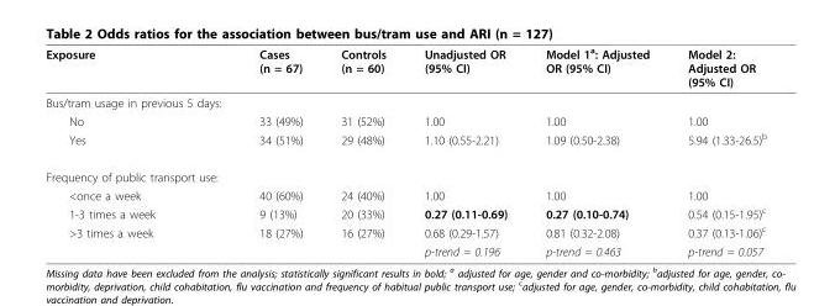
<table><thead><tr><td>Exposure</td><td>Cases (n = 67)</td><td>Controls (n = 60)</td><td>Unadjusted OR (95% CI)</td><td>Model 1<sup>a</sup>: Adjusted OR (95% CI)</td><td>Model 2: Adjusted OR (95% CI)</td></tr></thead><tbody><tr><td colspan="6">Bus/tram usage in previous 5 days:</td></tr><tr><td>No</td><td>33 (49%)</td><td>31 (52%)</td><td>1.00</td><td>1.00</td><td>1.00</td></tr><tr><td>Yes</td><td>34 (51%)</td><td>29 (48%)</td><td>1.10 (0.55-2.21)</td><td>1.09 (0.50-2.38)</td><td>5.94 (1.33-26.5)<sup>b</sup></td></tr><tr><td colspan="6">Frequency of public transport use:</td></tr><tr><td>&lt;once a week</td><td>40 (60%)</td><td>24 (40%)</td><td>1.00</td><td>1.00</td><td>1.00</td></tr><tr><td>1-3 times a week</td><td>9 (13%)</td><td>20 (33%)</td><td>0.27 (0.11-0.69)</td><td>0.27 (0.10-0.74)</td><td>0.54 (0.15-1.95)<sup>c</sup></td></tr><tr><td rowspan="2">&gt;3 times a week</td><td>18 (27%)</td><td>16 (27%)</td><td>0.68 (0.29-1.57)</td><td>0.81 (0.32-2.08)</td><td>0.37 (0.13-1.06)<sup>c</sup></td></tr><tr><td></td><td></td><td>p-trend = 0.196</td><td>p-trend = 0.463</td><td>p-trend = 0.057</td></tr></tbody></table>